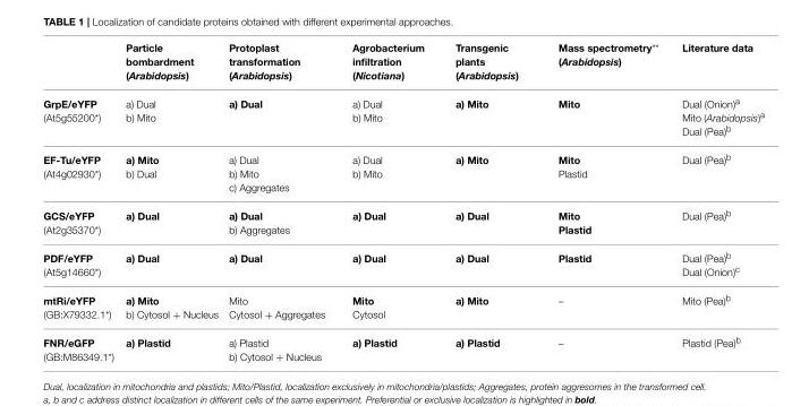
<table><thead><tr><td></td><td>Particle bombardment (Arabidopsis)</td><td>Protoplast transformation (Arabidopsis)</td><td>Agrobacterium infiltration (Nicotiana)</td><td>Transgenic plants (Arabidopsis)</td><td>Mass spectrometry** (Arabidopsis)</td><td>Literature data</td></tr></thead><tbody><tr><td>GrpE/eYFP (At5g55200*)</td><td>a) Dual b) Mito</td><td>a) Dual</td><td>a) Dual b) Mito</td><td>a) Mito</td><td>Mito</td><td>Dual (Onion)<sup>a</sup> Mito (Arabidopsis)<sup>a</sup> Dual (Pea)<sup>b</sup></td></tr><tr><td>EF-Tu/eYFP (At4g02930*)</td><td>a) Mito b) Dual</td><td>a) Dual b) Mito c) Aggregates</td><td>a) Dual b) Mito</td><td>a) Mito</td><td>Mito Plastid</td><td>Dual (Pea)<sup>b</sup></td></tr><tr><td>GCS/eYFP (At2g35370*)</td><td>a) Dual</td><td>a) Dual b) Aggregates</td><td>a) Dual</td><td>a) Dual</td><td>Mito Plastid</td><td>Dual (Pea)<sup>b</sup></td></tr><tr><td>PDF/eYFP (At5g14660*)</td><td>a) Dual</td><td>a) Dual</td><td>a) Dual</td><td>a) Dual</td><td>Plastid</td><td>Dual (Pea)<sup>b</sup> Dual (Onion)<sup>c</sup></td></tr><tr><td>mtRi/eYFP (GB:X79332.1*)</td><td>a) Mito b) Cytosol + Nucleus</td><td>Mito Cytosol + Aggregates</td><td>Mito Cytosol</td><td>a) Mito</td><td>–</td><td>Mito (Pea)<sup>b</sup></td></tr><tr><td>FNR/eGFP (GB:M86349.1*)</td><td>a) Plastid</td><td>a) Plastid b) Cytosol + Nucleus</td><td>a) Plastid</td><td>a) Plastid</td><td>–</td><td>Plastid (Pea)<sup>b</sup></td></tr></tbody></table>